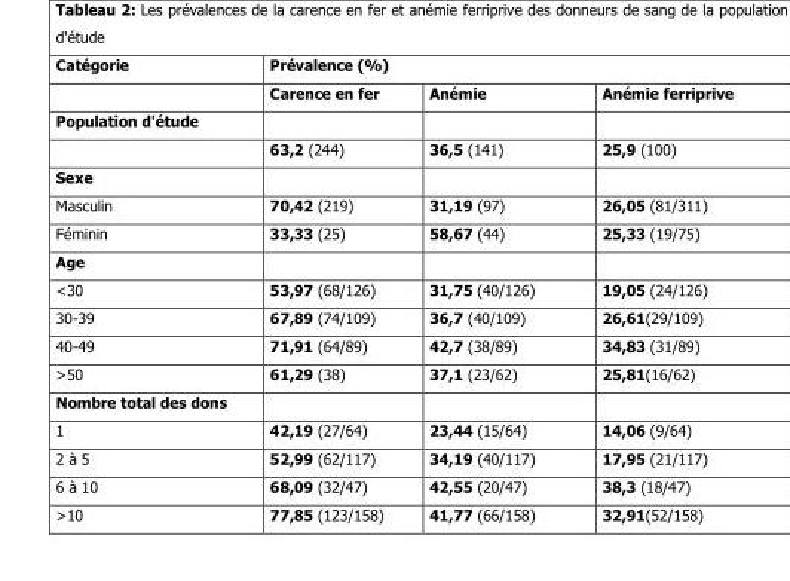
<table><thead><tr><td rowspan="2">Catégorie</td><td colspan="3">Prévalence (%)</td></tr><tr><td>Carence en fer</td><td>Anémie</td><td>Anémie ferriprive</td></tr></thead><tbody><tr><td colspan="4">Population d&#x27;étude</td></tr><tr><td></td><td>63,2 (244)</td><td>36,5 (141)</td><td>25,9 (100)</td></tr><tr><td colspan="4">Sexe</td></tr><tr><td>Masculin</td><td>70,42 (219)</td><td>31,19 (97)</td><td>26,05 (81/311)</td></tr><tr><td>Féminin</td><td>33,33 (25)</td><td>58,67 (44)</td><td>25,33 (19/75)</td></tr><tr><td colspan="4">Age</td></tr><tr><td>&lt;30</td><td>53,97 (68/126)</td><td>31,75 (40/126)</td><td>19,05 (24/126)</td></tr><tr><td>30-39</td><td>67,89 (74/109)</td><td>36,7 (40/109)</td><td>26,61(29/109)</td></tr><tr><td>40-49</td><td>71,91 (64/89)</td><td>42,7 (38/89)</td><td>34,83 (31/89)</td></tr><tr><td>&gt;50</td><td>61,29 (38)</td><td>37,1 (23/62)</td><td>25,81(16/62)</td></tr><tr><td colspan="4">Nombre total des dons</td></tr><tr><td>1</td><td>42,19 (27/64)</td><td>23,44 (15/64)</td><td>14,06 (9/64)</td></tr><tr><td>2 à 5</td><td>52,99 (62/117)</td><td>34,19 (40/117)</td><td>17,95 (21/117)</td></tr><tr><td>6 à 10</td><td>68,09 (32/47)</td><td>42,55 (20/47)</td><td>38,3 (18/47)</td></tr><tr><td>&gt;10</td><td>77,85 (123/158)</td><td>41,77 (66/158)</td><td>32,91(52/158)</td></tr></tbody></table>